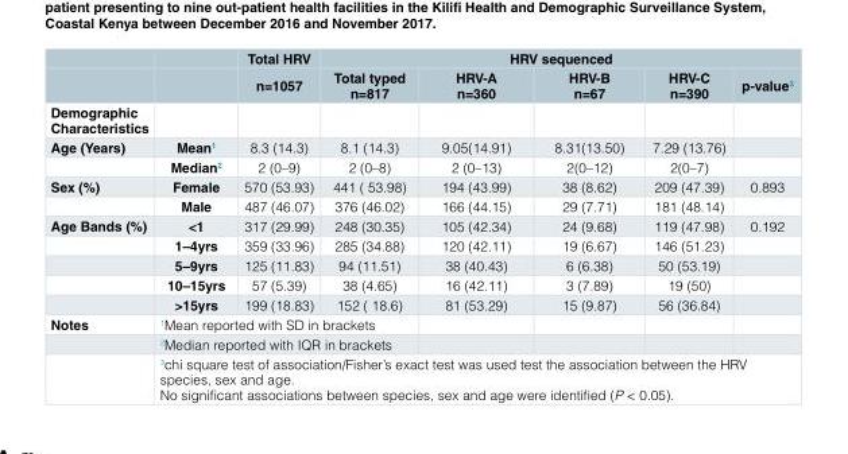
<table><thead><tr><td rowspan="2"></td><td rowspan="2"></td><td rowspan="2">Total HRV n=1057</td><td colspan="5">HRV sequenced</td></tr><tr><td>Total typed n=817</td><td>HRV-A n=360</td><td>HRV-B n=67</td><td>HRV-C n=390</td><td>p-value<sup>3</sup></td></tr></thead><tbody><tr><td colspan="8">Demographic Characteristics</td></tr><tr><td rowspan="2">Age (Years)</td><td>Mean<sup>1</sup></td><td>8.3 (14.3)</td><td>8.1 (14.3)</td><td>9.05(14.91)</td><td>8.31(13.50)</td><td>7.29 (13.76)</td><td></td></tr><tr><td>Median<sup>2</sup></td><td>2 (0–9)</td><td>2 (0–8)</td><td>2 (0–13)</td><td>2(0–12)</td><td>2(0–7)</td><td></td></tr><tr><td rowspan="2">Sex (%)</td><td>Female</td><td>570 (53.93)</td><td>441 ( 53.98)</td><td>194 (43.99)</td><td>38 (8.62)</td><td>209 (47.39)</td><td>0.893</td></tr><tr><td>Male</td><td>487 (46.07)</td><td>376 (46.02)</td><td>166 (44.15)</td><td>29 (7.71)</td><td>181 (48.14)</td><td></td></tr><tr><td rowspan="5">Age Bands (%)</td><td>&lt;1</td><td>317 (29.99)</td><td>248 (30.35)</td><td>105 (42.34)</td><td>24 (9.68)</td><td>119 (47.98)</td><td>0.192</td></tr><tr><td>1–4yrs</td><td>359 (33.96)</td><td>285 (34.88)</td><td>120 (42.11)</td><td>19 (6.67)</td><td>146 (51.23)</td><td></td></tr><tr><td>5–9yrs</td><td>125 (11.83)</td><td>94 (11.51)</td><td>38 (40.43)</td><td>6 (6.38)</td><td>50 (53.19)</td><td></td></tr><tr><td>10–15yrs</td><td>57 (5.39)</td><td>38 (4.65)</td><td>16 (42.11)</td><td>3 (7.89)</td><td>19 (50)</td><td></td></tr><tr><td>&gt;15yrs</td><td>199 (18.83)</td><td>152 ( 18.6)</td><td>81 (53.29)</td><td>15 (9.87)</td><td>56 (36.84)</td><td></td></tr><tr><td rowspan="3">Notes</td><td colspan="3"><sup>1</sup>Mean reported with SD in brackets</td><td></td><td></td><td></td><td></td></tr><tr><td colspan="3"><sup>2</sup>Median reported with IQR in brackets</td><td></td><td></td><td></td><td></td></tr><tr><td colspan="7"><sup>3</sup>chi square test of association/Fisher’s exact test was used test the association between the HRV species, sex and age. No significant associations between species, sex and age were identified (P &lt; 0.05).</td></tr></tbody></table>